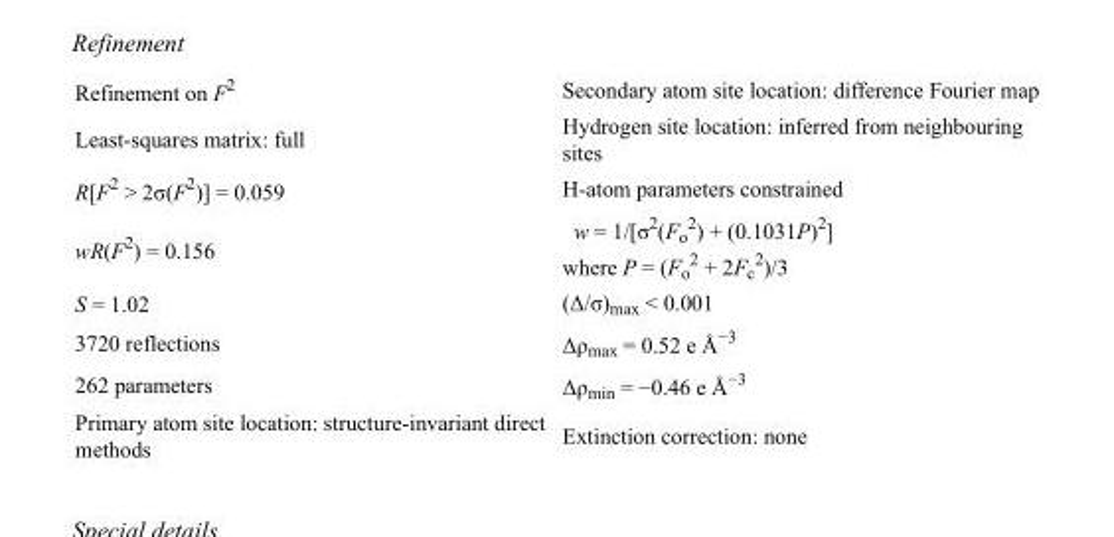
<table><tbody><tr><td>Refinement on F<sup>2</sup></td><td>Secondary atom site location: difference Fourier map</td></tr><tr><td>Least-squares matrix: full</td><td>Hydrogen site location: inferred from neighbouring sites</td></tr><tr><td>R[F<sup>2</sup> &gt; 2σ(F<sup>2</sup>)] = 0.059</td><td>H-atom parameters constrained</td></tr><tr><td>wR(F<sup>2</sup>) = 0.156</td><td>w = 1/[σ<sup>2</sup>(F<sub>o</sub> <sup>2</sup>) + (0.1031P)<sup>2</sup>] where P = (F<sub>o</sub> <sup>2</sup> + 2F<sub>c</sub> <sup>2</sup>)/3</td></tr><tr><td>S = 1.02</td><td>(Δ/σ)<sub>max</sub> &lt; 0.001</td></tr><tr><td>3720 reflections</td><td>Δρ<sub>max</sub> = 0.52 e Å<sup>−3</sup></td></tr><tr><td>262 parameters</td><td>Δρ<sub>min</sub> = −0.46 e Å<sup>−3</sup></td></tr><tr><td>Primary atom site location: structure-invariant direct methods</td><td>Extinction correction: none</td></tr></tbody></table>